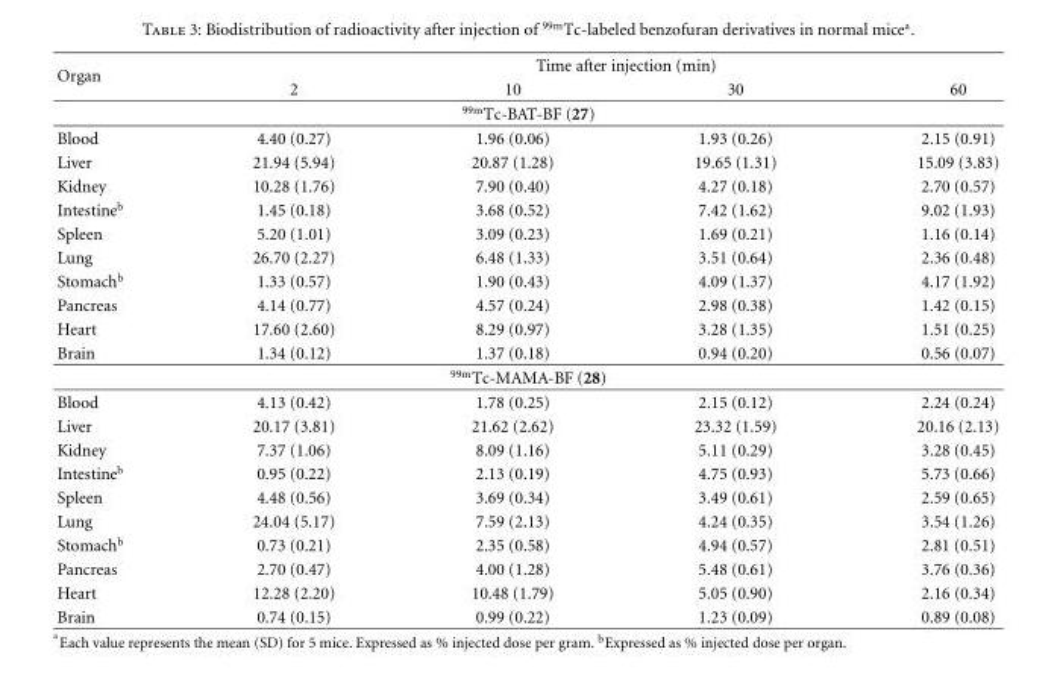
<table><thead><tr><td rowspan="2">Organ</td><td rowspan="2">2</td><td colspan="2">Time after injection (min)</td><td rowspan="2">60</td></tr><tr><td>10</td><td>30</td></tr></thead><tbody><tr><td colspan="5"><sup>99m</sup>Tc-BAT-BF (27)</td></tr><tr><td>Blood</td><td>4.40 (0.27)</td><td>1.96 (0.06)</td><td>1.93 (0.26)</td><td>2.15 (0.91)</td></tr><tr><td>Liver</td><td>21.94 (5.94)</td><td>20.87 (1.28)</td><td>19.65 (1.31)</td><td>15.09 (3.83)</td></tr><tr><td>Kidney</td><td>10.28 (1.76)</td><td>7.90 (0.40)</td><td>4.27 (0.18)</td><td>2.70 (0.57)</td></tr><tr><td>Intestine<sup>b</sup></td><td>1.45 (0.18)</td><td>3.68 (0.52)</td><td>7.42 (1.62)</td><td>9.02 (1.93)</td></tr><tr><td>Spleen</td><td>5.20 (1.01)</td><td>3.09 (0.23)</td><td>1.69 (0.21)</td><td>1.16 (0.14)</td></tr><tr><td>Lung</td><td>26.70 (2.27)</td><td>6.48 (1.33)</td><td>3.51 (0.64)</td><td>2.36 (0.48)</td></tr><tr><td>Stomach<sup>b</sup></td><td>1.33 (0.57)</td><td>1.90 (0.43)</td><td>4.09 (1.37)</td><td>4.17 (1.92)</td></tr><tr><td>Pancreas</td><td>4.14 (0.77)</td><td>4.57 (0.24)</td><td>2.98 (0.38)</td><td>1.42 (0.15)</td></tr><tr><td>Heart</td><td>17.60 (2.60)</td><td>8.29 (0.97)</td><td>3.28 (1.35)</td><td>1.51 (0.25)</td></tr><tr><td>Brain</td><td>1.34 (0.12)</td><td>1.37 (0.18)</td><td>0.94 (0.20)</td><td>0.56 (0.07)</td></tr><tr><td colspan="5"><sup>99m</sup>Tc-MAMA-BF (28)</td></tr><tr><td>Blood</td><td>4.13 (0.42)</td><td>1.78 (0.25)</td><td>2.15 (0.12)</td><td>2.24 (0.24)</td></tr><tr><td>Liver</td><td>20.17 (3.81)</td><td>21.62 (2.62)</td><td>23.32 (1.59)</td><td>20.16 (2.13)</td></tr><tr><td>Kidney</td><td>7.37 (1.06)</td><td>8.09 (1.16)</td><td>5.11 (0.29)</td><td>3.28 (0.45)</td></tr><tr><td>Intestine<sup>b</sup></td><td>0.95 (0.22)</td><td>2.13 (0.19)</td><td>4.75 (0.93)</td><td>5.73 (0.66)</td></tr><tr><td>Spleen</td><td>4.48 (0.56)</td><td>3.69 (0.34)</td><td>3.49 (0.61)</td><td>2.59 (0.65)</td></tr><tr><td>Lung</td><td>24.04 (5.17)</td><td>7.59 (2.13)</td><td>4.24 (0.35)</td><td>3.54 (1.26)</td></tr><tr><td>Stomach<sup>b</sup></td><td>0.73 (0.21)</td><td>2.35 (0.58)</td><td>4.94 (0.57)</td><td>2.81 (0.51)</td></tr><tr><td>Pancreas</td><td>2.70 (0.47)</td><td>4.00 (1.28)</td><td>5.48 (0.61)</td><td>3.76 (0.36)</td></tr><tr><td>Heart</td><td>12.28 (2.20)</td><td>10.48 (1.79)</td><td>5.05 (0.90)</td><td>2.16 (0.34)</td></tr><tr><td>Brain</td><td>0.74 (0.15)</td><td>0.99 (0.22)</td><td>1.23 (0.09)</td><td>0.89 (0.08)</td></tr></tbody></table>